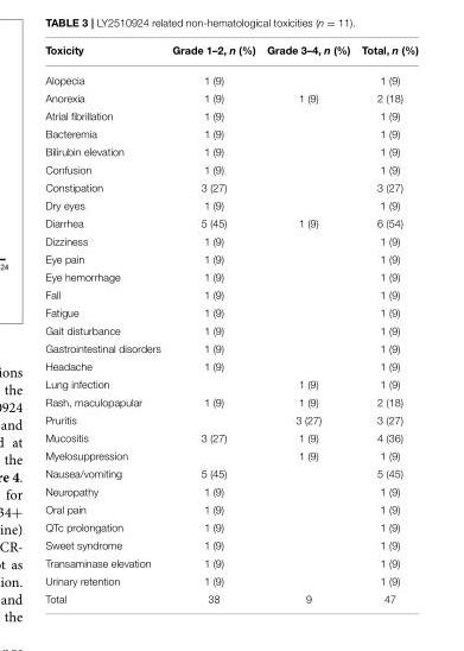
<table><thead><tr><td>Toxicity</td><td>Grade 1–2, n (%)</td><td>Grade 3–4, n (%)</td><td>Total, n (%)</td></tr></thead><tbody><tr><td>Alopecia</td><td>1 (9)</td><td></td><td>1 (9)</td></tr><tr><td>Anorexia</td><td>1 (9)</td><td>1 (9)</td><td>2 (18)</td></tr><tr><td>Atrial fibrillation</td><td>1 (9)</td><td></td><td>1 (9)</td></tr><tr><td>Bacteremia</td><td>1 (9)</td><td></td><td>1 (9)</td></tr><tr><td>Bilirubin elevation</td><td>1 (9)</td><td></td><td>1 (9)</td></tr><tr><td>Confusion</td><td>1 (9)</td><td></td><td>1 (9)</td></tr><tr><td>Constipation</td><td>3 (27)</td><td></td><td>3 (27)</td></tr><tr><td>Dry eyes</td><td>1 (9)</td><td></td><td>1 (9)</td></tr><tr><td>Diarrhea</td><td>5 (45)</td><td>1 (9)</td><td>6 (54)</td></tr><tr><td>Dizziness</td><td>1 (9)</td><td></td><td>1 (9)</td></tr><tr><td>Eye pain</td><td>1 (9)</td><td></td><td>1 (9)</td></tr><tr><td>Eye hemorrhage</td><td>1 (9)</td><td></td><td>1 (9)</td></tr><tr><td>Fall</td><td>1 (9)</td><td></td><td>1 (9)</td></tr><tr><td>Fatigue</td><td>1 (9)</td><td></td><td>1 (9)</td></tr><tr><td>Gait disturbance</td><td>1 (9)</td><td></td><td>1 (9)</td></tr><tr><td>Gastrointestinal disorders</td><td>1 (9)</td><td></td><td>1 (9)</td></tr><tr><td>Headache</td><td>1 (9)</td><td></td><td>1 (9)</td></tr><tr><td>Lung infection</td><td></td><td>1 (9)</td><td>1 (9)</td></tr><tr><td>Rash, maculopapular</td><td>1 (9)</td><td>1 (9)</td><td>2 (18)</td></tr><tr><td>Pruritis</td><td></td><td>3 (27)</td><td>3 (27)</td></tr><tr><td>Mucositis</td><td>3 (27)</td><td>1 (9)</td><td>4 (36)</td></tr><tr><td>Myelosuppression</td><td></td><td>1 (9)</td><td>1 (9)</td></tr><tr><td>Nausea/vomiting</td><td>5 (45)</td><td></td><td>5 (45)</td></tr><tr><td>Neuropathy</td><td>1 (9)</td><td></td><td>1 (9)</td></tr><tr><td>Oral pain</td><td>1 (9)</td><td></td><td>1 (9)</td></tr><tr><td>QTc prolongation</td><td>1 (9)</td><td></td><td>1 (9)</td></tr><tr><td>Sweet syndrome</td><td>1 (9)</td><td></td><td>1 (9)</td></tr><tr><td>Transaminase elevation</td><td>1 (9)</td><td></td><td>1 (9)</td></tr><tr><td>Urinary retention</td><td>1 (9)</td><td></td><td>1 (9)</td></tr><tr><td>Total</td><td>38</td><td>9</td><td>47</td></tr></tbody></table>